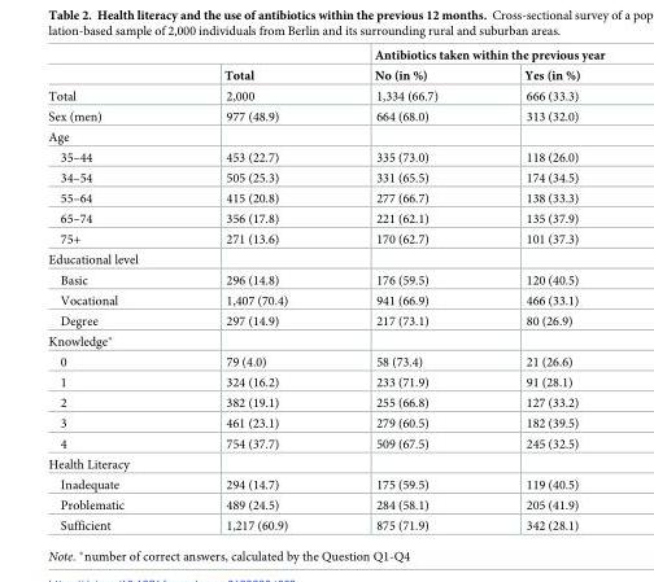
<table><thead><tr><td rowspan="2"></td><td rowspan="2">Total</td><td colspan="2">Antibiotics taken within the previous year</td></tr><tr><td>No (in %)</td><td>Yes (in %)</td></tr></thead><tbody><tr><td>Total</td><td>2,000</td><td>1,334 (66.7)</td><td>666 (33.3)</td></tr><tr><td>Sex (men)</td><td>977 (48.9)</td><td>664 (68.0)</td><td>313 (32.0)</td></tr><tr><td colspan="4">Age</td></tr><tr><td>35–44</td><td>453 (22.7)</td><td>335 (73.0)</td><td>118 (26.0)</td></tr><tr><td>34–54</td><td>505 (25.3)</td><td>331 (65.5)</td><td>174 (34.5)</td></tr><tr><td>55–64</td><td>415 (20.8)</td><td>277 (66.7)</td><td>138 (33.3)</td></tr><tr><td>65–74</td><td>356 (17.8)</td><td>221 (62.1)</td><td>135 (37.9)</td></tr><tr><td>75+</td><td>271 (13.6)</td><td>170 (62.7)</td><td>101 (37.3)</td></tr><tr><td colspan="4">Educational level</td></tr><tr><td>Basic</td><td>296 (14.8)</td><td>176 (59.5)</td><td>120 (40.5)</td></tr><tr><td>Vocational</td><td>1,407 (70.4)</td><td>941 (66.9)</td><td>466 (33.1)</td></tr><tr><td>Degree</td><td>297 (14.9)</td><td>217 (73.1)</td><td>80 (26.9)</td></tr><tr><td colspan="4">Knowledge*</td></tr><tr><td>0</td><td>79 (4.0)</td><td>58 (73.4)</td><td>21 (26.6)</td></tr><tr><td>1</td><td>324 (16.2)</td><td>233 (71.9)</td><td>91 (28.1)</td></tr><tr><td>2</td><td>382 (19.1)</td><td>255 (66.8)</td><td>127 (33.2)</td></tr><tr><td>3</td><td>461 (23.1)</td><td>279 (60.5)</td><td>182 (39.5)</td></tr><tr><td>4</td><td>754 (37.7)</td><td>509 (67.5)</td><td>245 (32.5)</td></tr><tr><td colspan="4">Health Literacy</td></tr><tr><td>Inadequate</td><td>294 (14.7)</td><td>175 (59.5)</td><td>119 (40.5)</td></tr><tr><td>Problematic</td><td>489 (24.5)</td><td>284 (58.1)</td><td>205 (41.9)</td></tr><tr><td>Sufficient</td><td>1,217 (60.9)</td><td>875 (71.9)</td><td>342 (28.1)</td></tr></tbody></table>